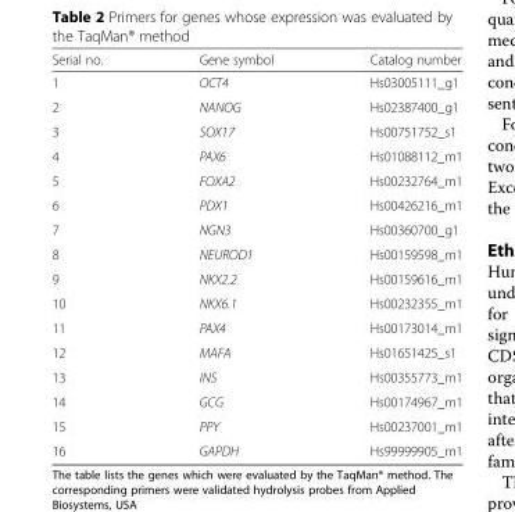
<table><thead><tr><td>Serial no.</td><td>Gene symbol</td><td>Catalog number</td></tr></thead><tbody><tr><td>1</td><td>OCT4</td><td>Hs03005111_g1</td></tr><tr><td>2</td><td>NANOG</td><td>Hs02387400_g1</td></tr><tr><td>3</td><td>SOX17</td><td>Hs00751752_s1</td></tr><tr><td>4</td><td>PAX6</td><td>Hs01088112_m1</td></tr><tr><td>5</td><td>FOXA2</td><td>Hs00232764_m1</td></tr><tr><td>6</td><td>PDX1</td><td>Hs00426216_m1</td></tr><tr><td>7</td><td>NGN3</td><td>Hs00360700_g1</td></tr><tr><td>8</td><td>NEUROD1</td><td>Hs00159598_m1</td></tr><tr><td>9</td><td>NKX2.2</td><td>Hs00159616_m1</td></tr><tr><td>10</td><td>NKX6.1</td><td>Hs00232355_m1</td></tr><tr><td>11</td><td>PAX4</td><td>Hs00173014_m1</td></tr><tr><td>12</td><td>MAFA</td><td>Hs01651425_s1</td></tr><tr><td>13</td><td>INS</td><td>Hs00355773_m1</td></tr><tr><td>14</td><td>GCG</td><td>Hs00174967_m1</td></tr><tr><td>15</td><td>PPY</td><td>Hs00237001_m1</td></tr><tr><td>16</td><td>GAPDH</td><td>Hs99999905_m1</td></tr></tbody></table>